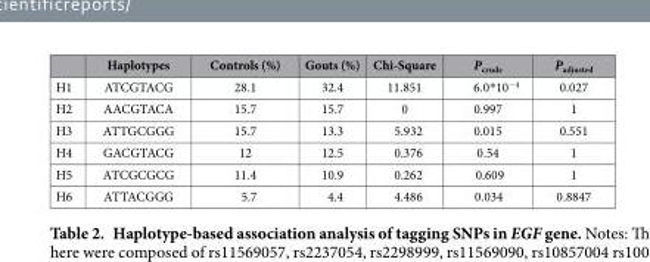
<table><thead><tr><td></td><td>Haplotypes</td><td>Controls (%)</td><td>Gouts (%)</td><td>Chi-Square</td><td>P<sub>crude</sub></td><td>P<sub>adjusted</sub></td></tr></thead><tbody><tr><td>H1</td><td>ATCGTACG</td><td>28.1</td><td>32.4</td><td>11.851</td><td>6.0* 10<sup>−4</sup></td><td>0.027</td></tr><tr><td>H2</td><td>AACGTACA</td><td>15.7</td><td>15.7</td><td>0</td><td>0.997</td><td>1</td></tr><tr><td>H3</td><td>ATTGCGGG</td><td>15.7</td><td>13.3</td><td>5.932</td><td>0.015</td><td>0.551</td></tr><tr><td>H4</td><td>GACGTACG</td><td>12</td><td>12.5</td><td>0.376</td><td>0.54</td><td>1</td></tr><tr><td>H5</td><td>ATCGCGCG</td><td>11.4</td><td>10.9</td><td>0.262</td><td>0.609</td><td>1</td></tr><tr><td>H6</td><td>ATTACGGG</td><td>5.7</td><td>4.4</td><td>4.486</td><td>0.034</td><td>0.8847</td></tr></tbody></table>